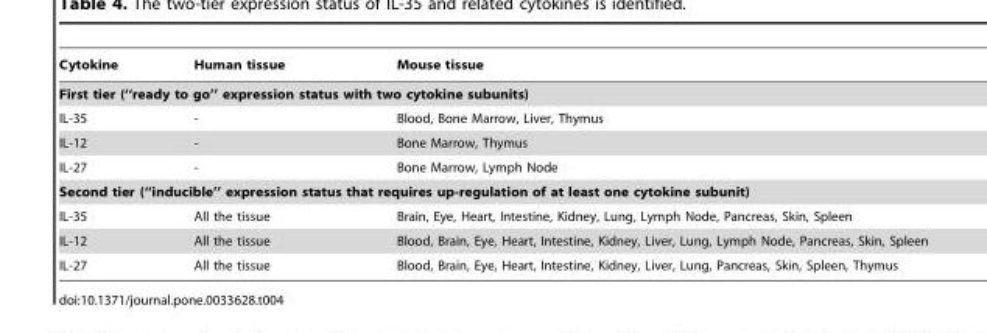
<table><thead><tr><td>Cytokine</td><td>Human tissue</td><td>Mouse tissue</td></tr></thead><tbody><tr><td colspan="3">First tier (‘‘ready to go’’ expression status with two cytokine subunits)</td></tr><tr><td>IL-35</td><td>-</td><td>Blood, Bone Marrow, Liver, Thymus</td></tr><tr><td>IL-12</td><td>-</td><td>Bone Marrow, Thymus</td></tr><tr><td>IL-27</td><td>-</td><td>Bone Marrow, Lymph Node</td></tr><tr><td colspan="3">Second tier (‘‘inducible’’ expression status that requires up-regulation of at least one cytokine subunit)</td></tr><tr><td>IL-35</td><td>All the tissue</td><td>Brain, Eye, Heart, Intestine, Kidney, Lung, Lymph Node, Pancreas, Skin, Spleen</td></tr><tr><td>IL-12</td><td>All the tissue</td><td>Blood, Brain, Eye, Heart, Intestine, Kidney, Liver, Lung, Lymph Node, Pancreas, Skin, Spleen</td></tr><tr><td>IL-27</td><td>All the tissue</td><td>Blood, Brain, Eye, Heart, Intestine, Kidney, Liver, Lung, Pancreas, Skin, Spleen, Thymus</td></tr></tbody></table>